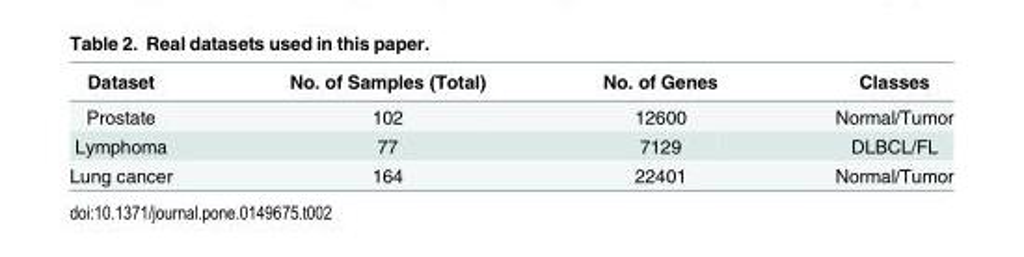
<table><thead><tr><td>Dataset</td><td>No. of Samples (Total)</td><td>No. of Genes</td><td>Classes</td></tr></thead><tbody><tr><td>Prostate</td><td>102</td><td>12600</td><td>Normal/Tumor</td></tr><tr><td>Lymphoma</td><td>77</td><td>7129</td><td>DLBCL/FL</td></tr><tr><td>Lung cancer</td><td>164</td><td>22401</td><td>Normal/Tumor</td></tr></tbody></table>